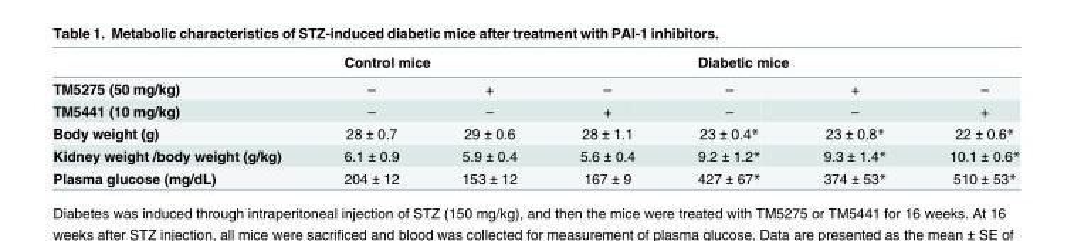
<table><thead><tr><td rowspan="2">TM5275 (50 mg/kg)</td><td colspan="3">Control mice</td><td colspan="3">Diabetic mice</td></tr><tr><td>–</td><td>+</td><td>–</td><td>–</td><td>+</td><td>–</td></tr></thead><tbody><tr><td>TM5441 (10 mg/kg)</td><td>–</td><td>–</td><td>+</td><td>–</td><td>–</td><td>+</td></tr><tr><td>Body weight (g)</td><td>28 ± 0.7</td><td>29 ± 0.6</td><td>28 ± 1.1</td><td>23 ± 0.4*</td><td>23 ± 0.8*</td><td>22 ± 0.6*</td></tr><tr><td>Kidney weight /body weight (g/kg)</td><td>6.1 ± 0.9</td><td>5.9 ± 0.4</td><td>5.6 ± 0.4</td><td>9.2 ± 1.2*</td><td>9.3 ± 1.4*</td><td>10.1 ± 0.6*</td></tr><tr><td>Plasma glucose (mg/dL)</td><td>204 ± 12</td><td>153 ± 12</td><td>167 ± 9</td><td>427 ± 67*</td><td>374 ± 53*</td><td>510 ± 53*</td></tr></tbody></table>